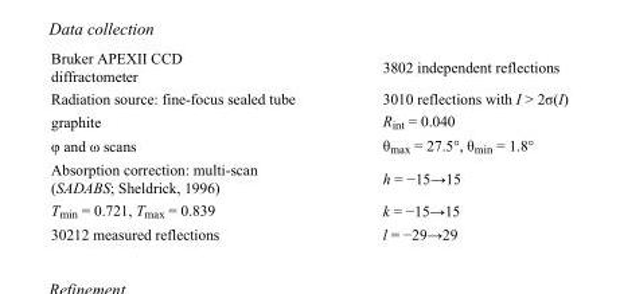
<table><tbody><tr><td>Bruker APEXII CCD diffractometer</td><td>3802 independent reflections</td></tr><tr><td>Radiation source: fine-focus sealed tube</td><td>3010 reflections with I &gt; 2σ(I)</td></tr><tr><td>graphite</td><td>R<sub>int</sub> = 0.040</td></tr><tr><td>φ and ω scans</td><td>θ<sub>max</sub> = 27.5°, θ<sub>min</sub> = 1.8°</td></tr><tr><td>Absorption correction: multi-scan (SADABS; Sheldrick, 1996)</td><td>h = −15→15</td></tr><tr><td>T<sub>min</sub> = 0.721, T<sub>max</sub> = 0.839</td><td>k = −15→15</td></tr><tr><td>30212 measured reflections</td><td>l = −29→29</td></tr></tbody></table>